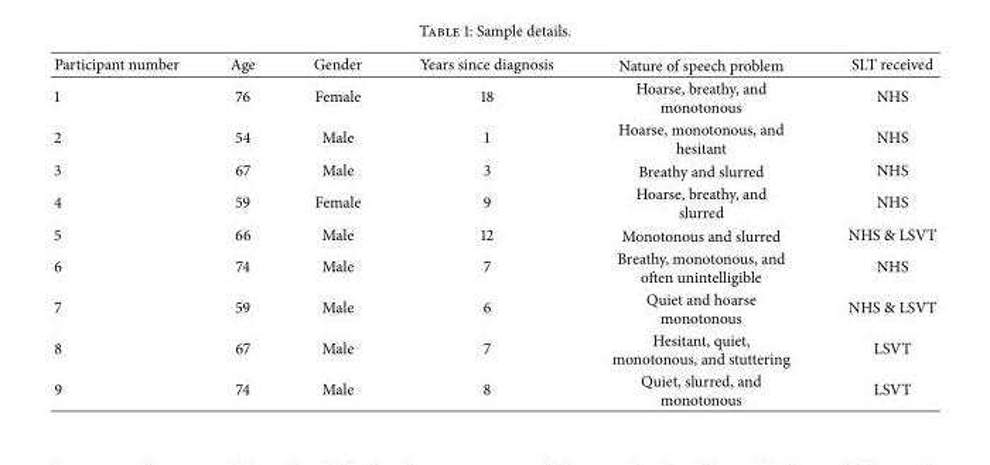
<table><thead><tr><td>Participant number</td><td>Age</td><td>Gender</td><td>Years since diagnosis</td><td>Nature of speech problem</td><td>SLT received</td></tr></thead><tbody><tr><td>1</td><td>76</td><td>Female</td><td>18</td><td>Hoarse, breathy, and monotonous</td><td>NHS</td></tr><tr><td>2</td><td>54</td><td>Male</td><td>1</td><td>Hoarse, monotonous, and hesitant</td><td>NHS</td></tr><tr><td>3</td><td>67</td><td>Male</td><td>3</td><td>Breathy and slurred</td><td>NHS</td></tr><tr><td>4</td><td>59</td><td>Female</td><td>9</td><td>Hoarse, breathy, and slurred</td><td>NHS</td></tr><tr><td>5</td><td>66</td><td>Male</td><td>12</td><td>Monotonous and slurred</td><td>NHS &amp; LSVT</td></tr><tr><td>6</td><td>74</td><td>Male</td><td>7</td><td>Breathy, monotonous, and often unintelligible</td><td>NHS</td></tr><tr><td>7</td><td>59</td><td>Male</td><td>6</td><td>Quiet and hoarse monotonous</td><td>NHS &amp; LSVT</td></tr><tr><td>8</td><td>67</td><td>Male</td><td>7</td><td>Hesitant, quiet, monotonous, and stuttering</td><td>LSVT</td></tr><tr><td>9</td><td>74</td><td>Male</td><td>8</td><td>Quiet, slurred, and monotonous</td><td>LSVT</td></tr></tbody></table>